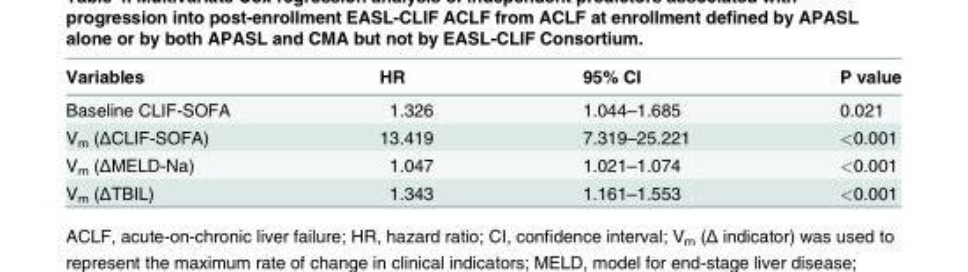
<table><thead><tr><td>Variables</td><td>HR</td><td>95% CI</td><td>P value</td></tr></thead><tbody><tr><td>Baseline CLIF-SOFA</td><td>1.326</td><td>1.044–1.685</td><td>0.021</td></tr><tr><td>V<sub>m</sub> (ΔCLIF-SOFA)</td><td>13.419</td><td>7.319–25.221</td><td>&lt;0.001</td></tr><tr><td>V<sub>m</sub> (ΔMELD-Na)</td><td>1.047</td><td>1.021–1.074</td><td>&lt;0.001</td></tr><tr><td>V<sub>m</sub> (ΔTBIL)</td><td>1.343</td><td>1.161–1.553</td><td>&lt;0.001</td></tr></tbody></table>